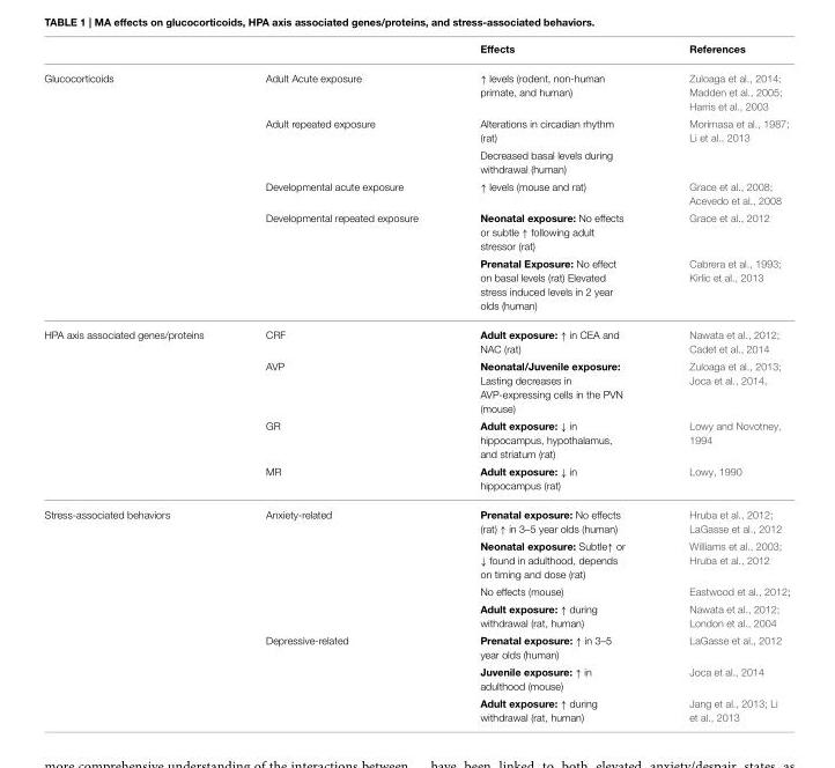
<table><thead><tr><td></td><td></td><td>Effects</td><td>References</td></tr></thead><tbody><tr><td rowspan="6">Glucocorticoids</td><td>Adult Acute exposure</td><td>↑ levels (rodent, non-human primate, and human)</td><td>Zuloaga et al., 2014; Madden et al., 2005; Harris et al., 2003</td></tr><tr><td>Adult repeated exposure</td><td>Alterations in circadian rhythm (rat)</td><td>Morimasa et al., 1987; Li et al., 2013</td></tr><tr><td></td><td>Decreased basal levels during withdrawal (human)</td><td></td></tr><tr><td>Developmental acute exposure</td><td>↑ levels (mouse and rat)</td><td>Grace et al., 2008; Acevedo et al., 2008</td></tr><tr><td>Developmental repeated exposure</td><td>Neonatal exposure: No effects or subtle ↑ following adult stressor (rat)</td><td>Grace et al., 2012</td></tr><tr><td></td><td>Prenatal Exposure: No effect on basal levels (rat) Elevated stress induced levels in 2 year olds (human)</td><td>Cabrera et al., 1993; Kirlic et al., 2013</td></tr><tr><td rowspan="4">HPA axis associated genes/proteins</td><td>CRF</td><td>Adult exposure: ↑ in CEA and NAC (rat)</td><td>Nawata et al., 2012; Cadet et al., 2014</td></tr><tr><td>AVP</td><td>Neonatal/Juvenile exposure: Lasting decreases in AVP-expressing cells in the PVN (mouse)</td><td>Zuloaga et al., 2013; Joca et al., 2014.</td></tr><tr><td>GR</td><td>Adult exposure: ↓ in hippocampus, hypothalamus, and striatum (rat)</td><td>Lowy and Novotney, 1994</td></tr><tr><td>MR</td><td>Adult exposure: ↓ in hippocampus (rat)</td><td>Lowy, 1990</td></tr><tr><td rowspan="7">Stress-associated behaviors</td><td>Anxiety-related</td><td>Prenatal exposure: No effects (rat) ↑ in 3–5 year olds (human)</td><td>Hruba et al., 2012; LaGasse et al., 2012</td></tr><tr><td></td><td>Neonatal exposure: Subtle↑ or ↓ found in adulthood, depends on timing and dose (rat)</td><td>Williams et al., 2003; Hruba et al., 2012</td></tr><tr><td></td><td>No effects (mouse)</td><td>Eastwood et al., 2012;</td></tr><tr><td></td><td>Adult exposure: ↑ during withdrawal (rat, human)</td><td>Nawata et al., 2012; London et al., 2004</td></tr><tr><td>Depressive-related</td><td>Prenatal exposure: ↑ in 3–5 year olds (human)</td><td>LaGasse et al., 2012</td></tr><tr><td></td><td>Juvenile exposure: ↑ in adulthood (mouse)</td><td>Joca et al., 2014</td></tr><tr><td></td><td>Adult exposure: ↑ during withdrawal (rat, human)</td><td>Jang et al., 2013; Li et al., 2013</td></tr></tbody></table>